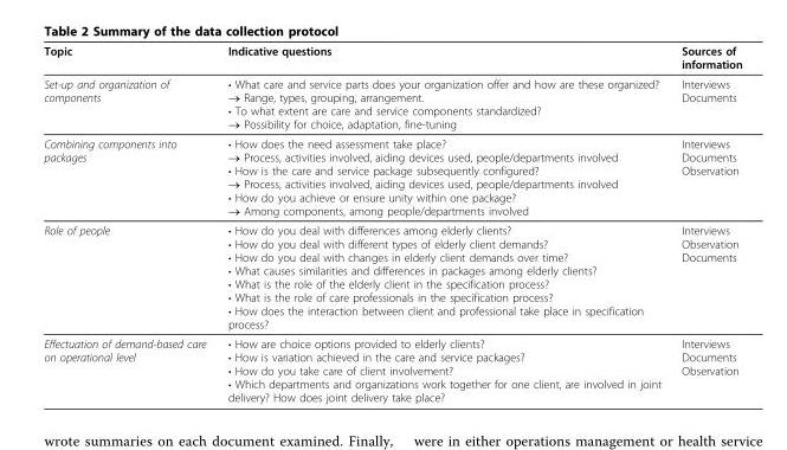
<table><thead><tr><td>Topic</td><td>Indicative questions</td><td>Sources of information</td></tr></thead><tbody><tr><td>Set-up and organization of components</td><td>• What care and service parts does your organization offer and how are these organized? → Range, types, grouping, arrangement. • To what extent are care and service components standardized? → Possibility for choice, adaptation, fine-tuning</td><td>Interviews Documents</td></tr><tr><td>Combining components into packages</td><td>• How does the need assessment take place? → Process, activities involved, aiding devices used, people/departments involved • How is the care and service package subsequently configured? → Process, activities involved, aiding devices used, people/departments involved • How do you achieve or ensure unity within one package? → Among components, among people/departments involved</td><td>Interviews Documents Observation</td></tr><tr><td>Role of people</td><td>• How do you deal with differences among elderly clients? • How do you deal with different types of elderly client demands? • How do you deal with changes in elderly client demands over time? • What causes similarities and differences in packages among elderly clients? • What is the role of the elderly client in the specification process? • What is the role of care professionals in the specification process? • How does the interaction between client and professional take place in specification process?</td><td>Interviews Observation Documents</td></tr><tr><td>Effectuation of demand-based care on operational level</td><td>• How are choice options provided to elderly clients? • How is variation achieved in the care and service packages? • How do you take care of client involvement? • Which departments and organizations work together for one client, are involved in joint delivery? How does joint delivery take place?</td><td>Interviews Documents Observation</td></tr></tbody></table>